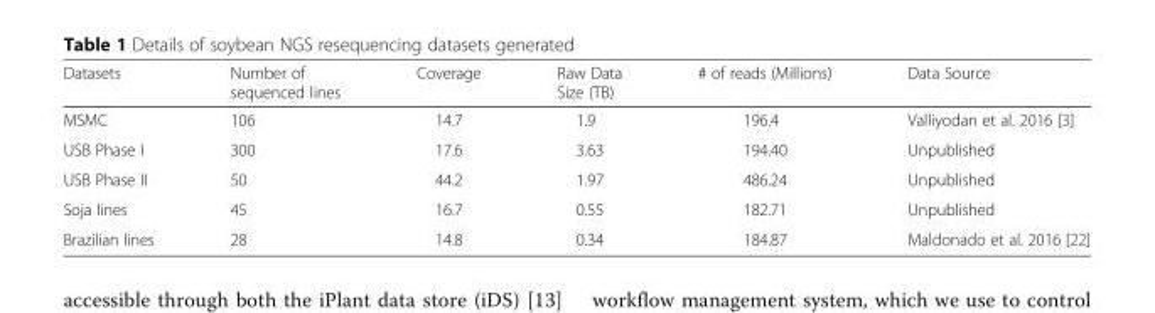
<table><thead><tr><td>Datasets</td><td>Number of sequenced lines</td><td>Coverage</td><td>Raw Data Size (TB)</td><td># of reads (Millions)</td><td>Data Source</td></tr></thead><tbody><tr><td>MSMC</td><td>106</td><td>14.7</td><td>1.9</td><td>196.4</td><td>Valliyodan et al. 2016 [3]</td></tr><tr><td>USB Phase I</td><td>300</td><td>17.6</td><td>3.63</td><td>194.40</td><td>Unpublished</td></tr><tr><td>USB Phase II</td><td>50</td><td>44.2</td><td>1.97</td><td>486.24</td><td>Unpublished</td></tr><tr><td>Soja lines</td><td>45</td><td>16.7</td><td>0.55</td><td>182.71</td><td>Unpublished</td></tr><tr><td>Brazilian lines</td><td>28</td><td>14.8</td><td>0.34</td><td>184.87</td><td>Maldonado et al. 2016 [22]</td></tr></tbody></table>